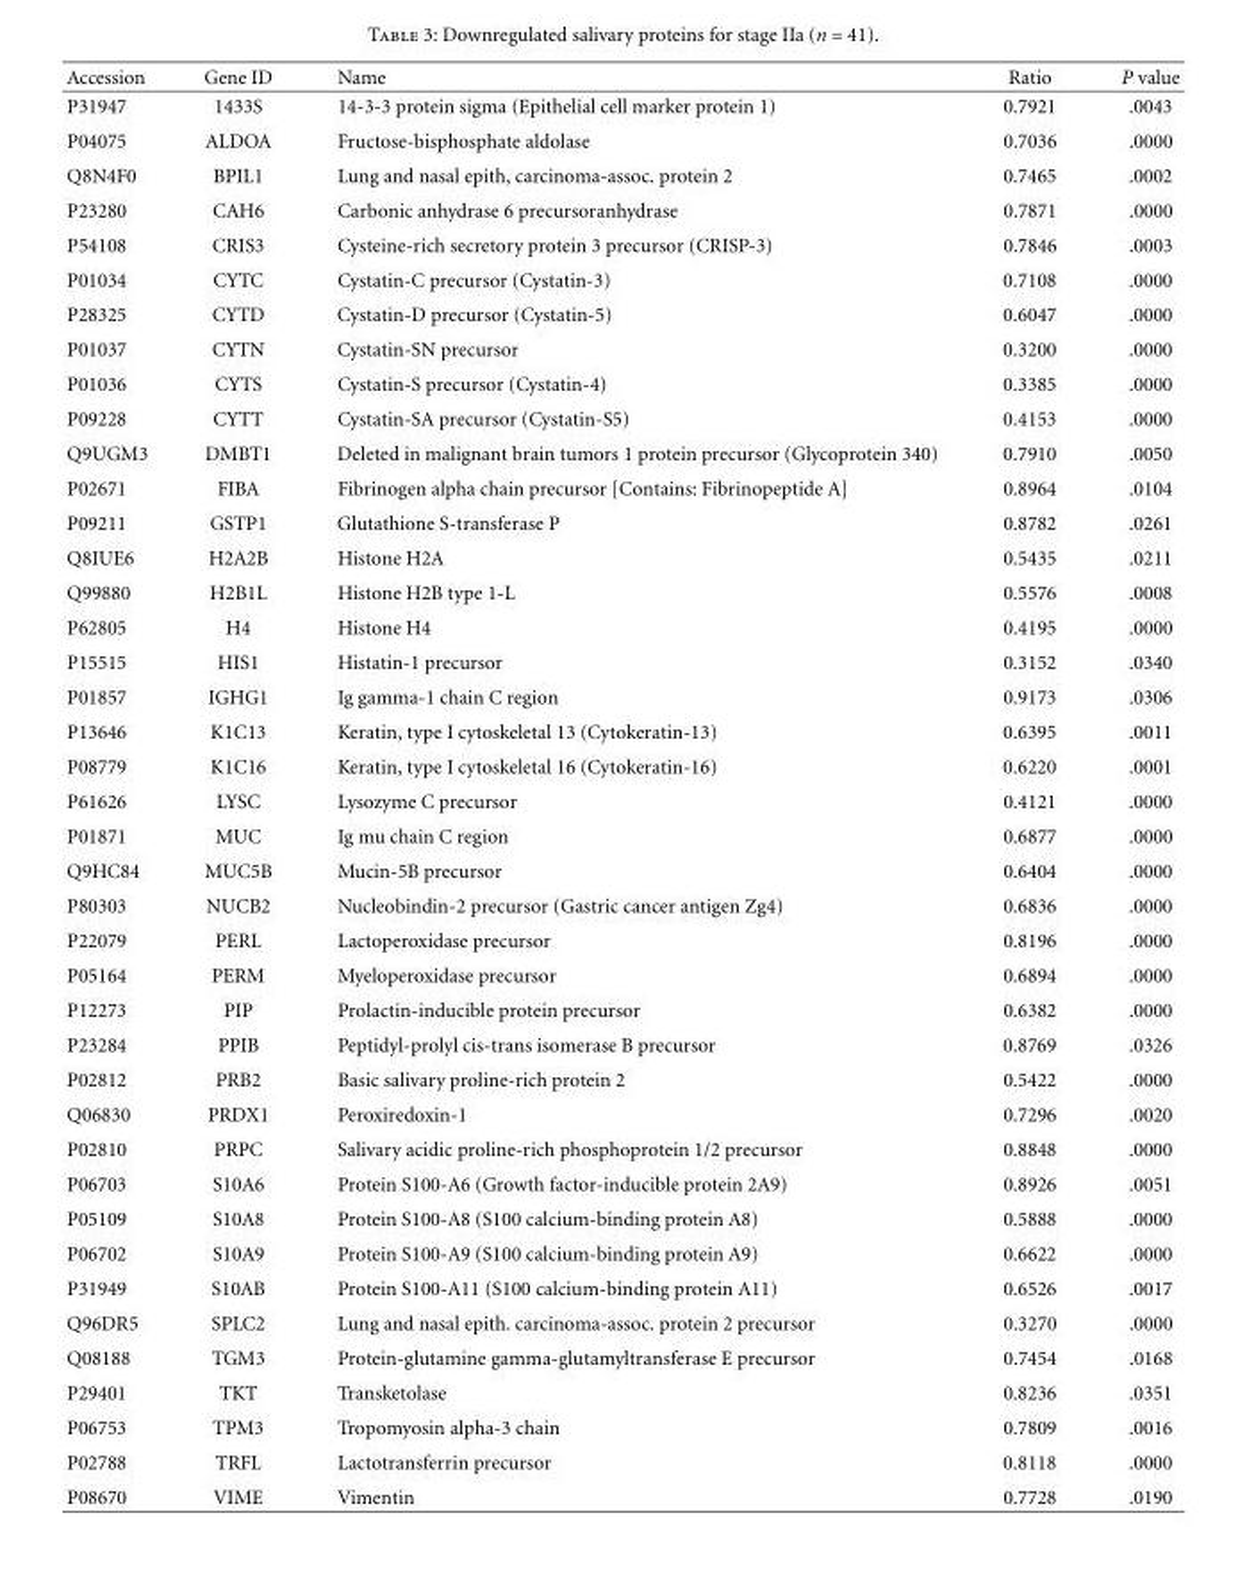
<table><thead><tr><td>Accession</td><td>Gene ID</td><td>Name</td><td>Ratio</td><td>P value</td></tr></thead><tbody><tr><td>P31947</td><td>1433S</td><td>14-3-3 protein sigma (Epithelial cell marker protein 1)</td><td>0.7921</td><td>.0043</td></tr><tr><td>P04075</td><td>ALDOA</td><td>Fructose-bisphosphate aldolase</td><td>0.7036</td><td>.0000</td></tr><tr><td>Q8N4F0</td><td>BPIL1</td><td>Lung and nasal epith, carcinoma-assoc. protein 2</td><td>0.7465</td><td>.0002</td></tr><tr><td>P23280</td><td>CAH6</td><td>Carbonic anhydrase 6 precursoranhydrase</td><td>0.7871</td><td>.0000</td></tr><tr><td>P54108</td><td>CRIS3</td><td>Cysteine-rich secretory protein 3 precursor (CRISP-3)</td><td>0.7846</td><td>.0003</td></tr><tr><td>P01034</td><td>CYTC</td><td>Cystatin-C precursor (Cystatin-3)</td><td>0.7108</td><td>.0000</td></tr><tr><td>P28325</td><td>CYTD</td><td>Cystatin-D precursor (Cystatin-5)</td><td>0.6047</td><td>.0000</td></tr><tr><td>P01037</td><td>CYTN</td><td>Cystatin-SN precursor</td><td>0.3200</td><td>.0000</td></tr><tr><td>P01036</td><td>CYTS</td><td>Cystatin-S precursor (Cystatin-4)</td><td>0.3385</td><td>.0000</td></tr><tr><td>P09228</td><td>CYTT</td><td>Cystatin-SA precursor (Cystatin-S5)</td><td>0.4153</td><td>.0000</td></tr><tr><td>Q9UGM3</td><td>DMBT1</td><td>Deleted in malignant brain tumors 1 protein precursor (Glycoprotein 340)</td><td>0.7910</td><td>.0050</td></tr><tr><td>P02671</td><td>FIBA</td><td>Fibrinogen alpha chain precursor [Contains: Fibrinopeptide A]</td><td>0.8964</td><td>.0104</td></tr><tr><td>P09211</td><td>GSTP1</td><td>Glutathione S-transferase P</td><td>0.8782</td><td>.0261</td></tr><tr><td>Q8IUE6</td><td>H2A2B</td><td>Histone H2A</td><td>0.5435</td><td>.0211</td></tr><tr><td>Q99880</td><td>H2B1L</td><td>Histone H2B type 1-L</td><td>0.5576</td><td>.0008</td></tr><tr><td>P62805</td><td>H4</td><td>Histone H4</td><td>0.4195</td><td>.0000</td></tr><tr><td>P15515</td><td>HIS1</td><td>Histatin-1 precursor</td><td>0.3152</td><td>.0340</td></tr><tr><td>P01857</td><td>IGHG1</td><td>Ig gamma-1 chain C region</td><td>0.9173</td><td>.0306</td></tr><tr><td>P13646</td><td>K1C13</td><td>Keratin, type I cytoskeletal 13 (Cytokeratin-13)</td><td>0.6395</td><td>.0011</td></tr><tr><td>P08779</td><td>K1C16</td><td>Keratin, type I cytoskeletal 16 (Cytokeratin-16)</td><td>0.6220</td><td>.0001</td></tr><tr><td>P61626</td><td>LYSC</td><td>Lysozyme C precursor</td><td>0.4121</td><td>.0000</td></tr><tr><td>P01871</td><td>MUC</td><td>Ig mu chain C region</td><td>0.6877</td><td>.0000</td></tr><tr><td>Q9HC84</td><td>MUC5B</td><td>Mucin-5B precursor</td><td>0.6404</td><td>.0000</td></tr><tr><td>P80303</td><td>NUCB2</td><td>Nucleobindin-2 precursor (Gastric cancer antigen Zg4)</td><td>0.6836</td><td>.0000</td></tr><tr><td>P22079</td><td>PERL</td><td>Lactoperoxidase precursor</td><td>0.8196</td><td>.0000</td></tr><tr><td>P05164</td><td>PERM</td><td>Myeloperoxidase precursor</td><td>0.6894</td><td>.0000</td></tr><tr><td>P12273</td><td>PIP</td><td>Prolactin-inducible protein precursor</td><td>0.6382</td><td>.0000</td></tr><tr><td>P23284</td><td>PPIB</td><td>Peptidyl-prolyl cis-trans isomerase B precursor</td><td>0.8769</td><td>.0326</td></tr><tr><td>P02812</td><td>PRB2</td><td>Basic salivary proline-rich protein 2</td><td>0.5422</td><td>.0000</td></tr><tr><td>Q06830</td><td>PRDX1</td><td>Peroxiredoxin-1</td><td>0.7296</td><td>.0020</td></tr><tr><td>P02810</td><td>PRPC</td><td>Salivary acidic proline-rich phosphoprotein 1/2 precursor</td><td>0.8848</td><td>.0000</td></tr><tr><td>P06703</td><td>S10A6</td><td>Protein S100-A6 (Growth factor-inducible protein 2A9)</td><td>0.8926</td><td>.0051</td></tr><tr><td>P05109</td><td>S10A8</td><td>Protein S100-A8 (S100 calcium-binding protein A8)</td><td>0.5888</td><td>.0000</td></tr><tr><td>P06702</td><td>S10A9</td><td>Protein S100-A9 (S100 calcium-binding protein A9)</td><td>0.6622</td><td>.0000</td></tr><tr><td>P31949</td><td>S10AB</td><td>Protein S100-A11 (S100 calcium-binding protein A11)</td><td>0.6526</td><td>.0017</td></tr><tr><td>Q96DR5</td><td>SPLC2</td><td>Lung and nasal epith. carcinoma-assoc. protein 2 precursor</td><td>0.3270</td><td>.0000</td></tr><tr><td>Q08188</td><td>TGM3</td><td>Protein-glutamine gamma-glutamyltransferase E precursor</td><td>0.7454</td><td>.0168</td></tr><tr><td>P29401</td><td>TKT</td><td>Transketolase</td><td>0.8236</td><td>.0351</td></tr><tr><td>P06753</td><td>TPM3</td><td>Tropomyosin alpha-3 chain</td><td>0.7809</td><td>.0016</td></tr><tr><td>P02788</td><td>TRFL</td><td>Lactotransferrin precursor</td><td>0.8118</td><td>.0000</td></tr><tr><td>P08670</td><td>VIME</td><td>Vimentin</td><td>0.7728</td><td>.0190</td></tr></tbody></table>